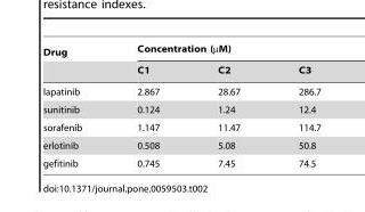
<table><thead><tr><td rowspan="2">Drug</td><td colspan="3">Concentration (µM)</td></tr><tr><td>C1</td><td>C2</td><td>C3</td></tr></thead><tbody><tr><td>lapatinib</td><td>2.867</td><td>28.67</td><td>286.7</td></tr><tr><td>sunitinib</td><td>0.124</td><td>1.24</td><td>12.4</td></tr><tr><td>sorafenib</td><td>1.147</td><td>11.47</td><td>114.7</td></tr><tr><td>erlotinib</td><td>0.508</td><td>5.08</td><td>50.8</td></tr><tr><td>gefitinib</td><td>0.745</td><td>7.45</td><td>74.5</td></tr></tbody></table>